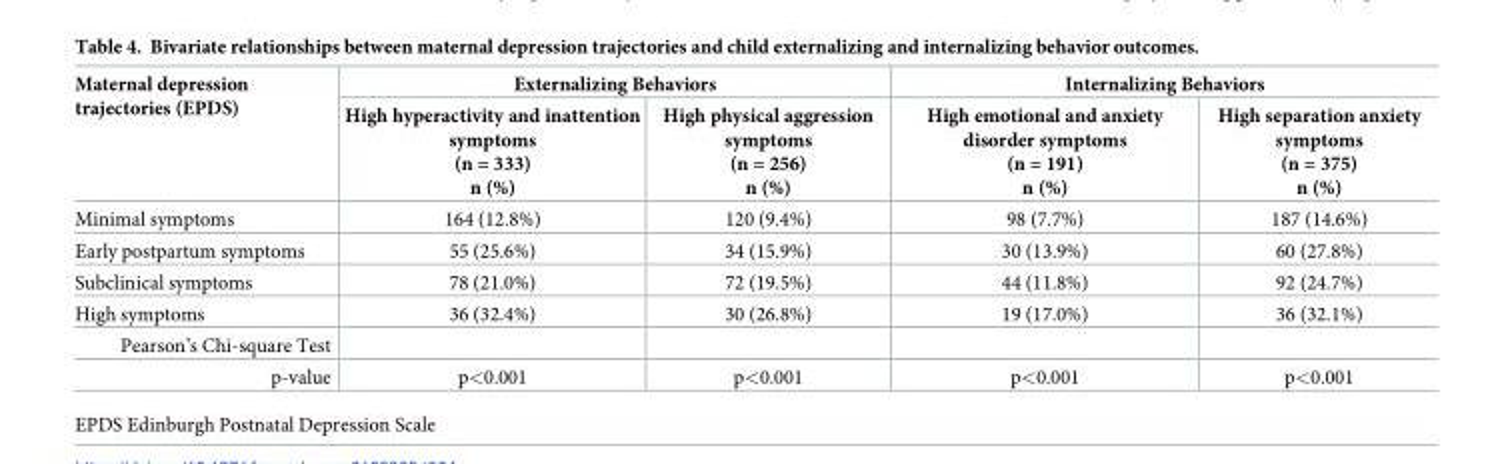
<table><thead><tr><td rowspan="2">Maternal depression trajectories (EPDS)</td><td colspan="2">Externalizing Behaviors</td><td colspan="2">Internalizing Behaviors</td></tr><tr><td>High hyperactivity and inattention symptoms (n = 333) n (%)</td><td>High physical aggression symptoms (n = 256) n (%)</td><td>High emotional and anxiety disorder symptoms (n = 191) n (%)</td><td>High separation anxiety symptoms (n = 375) n (%)</td></tr></thead><tbody><tr><td>Minimal symptoms</td><td>164 (12.8%)</td><td>120 (9.4%)</td><td>98 (7.7%)</td><td>187 (14.6%)</td></tr><tr><td>Early postpartum symptoms</td><td>55 (25.6%)</td><td>34 (15.9%)</td><td>30 (13.9%)</td><td>60 (27.8%)</td></tr><tr><td>Subclinical symptoms</td><td>78 (21.0%)</td><td>72 (19.5%)</td><td>44 (11.8%)</td><td>92 (24.7%)</td></tr><tr><td>High symptoms</td><td>36 (32.4%)</td><td>30 (26.8%)</td><td>19 (17.0%)</td><td>36 (32.1%)</td></tr><tr><td colspan="5">Pearson’s Chi-square Test</td></tr><tr><td>p-value</td><td>p&lt;0.001</td><td>p&lt;0.001</td><td>p&lt;0.001</td><td>p&lt;0.001</td></tr></tbody></table>